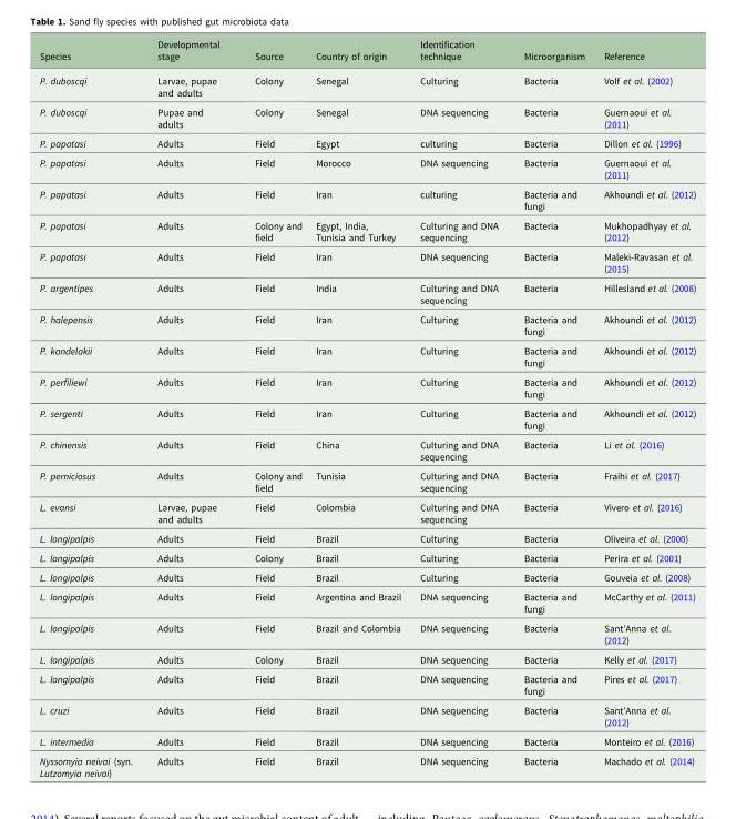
<table><thead><tr><td>Species</td><td>Developmental stage</td><td>Source</td><td>Country of origin</td><td>Identification technique</td><td>Microorganism</td><td>Reference</td></tr></thead><tbody><tr><td>P. duboscqi</td><td>Larvae, pupae and adults</td><td>Colony</td><td>Senegal</td><td>Culturing</td><td>Bacteria</td><td>Volf et al. (2002)</td></tr><tr><td>P. duboscqi</td><td>Pupae and adults</td><td>Colony</td><td>Senegal</td><td>DNA sequencing</td><td>Bacteria</td><td>Guernaoui et al. (2011)</td></tr><tr><td>P. papatasi</td><td>Adults</td><td>Field</td><td>Egypt</td><td>culturing</td><td>Bacteria</td><td>Dillon et al. (1996)</td></tr><tr><td>P. papatasi</td><td>Adults</td><td>Field</td><td>Morocco</td><td>DNA sequencing</td><td>Bacteria</td><td>Guernaoui et al. (2011)</td></tr><tr><td>P. papatasi</td><td>Adults</td><td>Field</td><td>Iran</td><td>culturing</td><td>Bacteria and fungi</td><td>Akhoundi et al. (2012)</td></tr><tr><td>P. papatasi</td><td>Adults</td><td>Colony and field</td><td>Egypt, India, Tunisia and Turkey</td><td>Culturing and DNA sequencing</td><td>Bacteria</td><td>Mukhopadhyay et al. (2012)</td></tr><tr><td>P. papatasi</td><td>Adults</td><td>Field</td><td>Iran</td><td>DNA sequencing</td><td>Bacteria</td><td>Maleki-Ravasan et al. (2015)</td></tr><tr><td>P. argentipes</td><td>Adults</td><td>Field</td><td>India</td><td>Culturing and DNA sequencing</td><td>Bacteria</td><td>Hillesland et al. (2008)</td></tr><tr><td>P. halepensis</td><td>Adults</td><td>Field</td><td>Iran</td><td>Culturing</td><td>Bacteria and fungi</td><td>Akhoundi et al. (2012)</td></tr><tr><td>P. kandelakii</td><td>Adults</td><td>Field</td><td>Iran</td><td>Culturing</td><td>Bacteria and fungi</td><td>Akhoundi et al. (2012)</td></tr><tr><td>P. perfiliewi</td><td>Adults</td><td>Field</td><td>Iran</td><td>Culturing</td><td>Bacteria and fungi</td><td>Akhoundi et al. (2012)</td></tr><tr><td>P. sergenti</td><td>Adults</td><td>Field</td><td>Iran</td><td>Culturing</td><td>Bacteria and fungi</td><td>Akhoundi et al. (2012)</td></tr><tr><td>P. chinensis</td><td>Adults</td><td>Field</td><td>China</td><td>Culturing and DNA sequencing</td><td>Bacteria</td><td>Li et al. (2016)</td></tr><tr><td>P. perniciosus</td><td>Adults</td><td>Colony and field</td><td>Tunisia</td><td>Culturing and DNA sequencing</td><td>Bacteria</td><td>Fraihi et al. (2017)</td></tr><tr><td>L. evansi</td><td>Larvae, pupae and adults</td><td>Field</td><td>Colombia</td><td>Culturing and DNA sequencing</td><td>Bacteria</td><td>Vivero et al. (2016)</td></tr><tr><td>L. longipalpis</td><td>Adults</td><td>Field</td><td>Brazil</td><td>Culturing</td><td>Bacteria</td><td>Oliveira et al. (2000)</td></tr><tr><td>L. longipalpis</td><td>Adults</td><td>Colony</td><td>Brazil</td><td>Culturing</td><td>Bacteria</td><td>Perira et al. (2001)</td></tr><tr><td>L. longipalpis</td><td>Adults</td><td>Field</td><td>Brazil</td><td>Culturing</td><td>Bacteria</td><td>Gouveia et al. (2008)</td></tr><tr><td>L. longipalpis</td><td>Adults</td><td>Field</td><td>Argentina and Brazil</td><td>DNA sequencing</td><td>Bacteria and fungi</td><td>McCarthy et al. (2011)</td></tr><tr><td>L. longipalpis</td><td>Adults</td><td>Field</td><td>Brazil and Colombia</td><td>DNA sequencing</td><td>Bacteria</td><td>Sant’Anna et al. (2012)</td></tr><tr><td>L. longipalpis</td><td>Adults</td><td>Colony</td><td>Brazil</td><td>DNA sequencing</td><td>Bacteria</td><td>Kelly et al. (2017)</td></tr><tr><td>L. longipalpis</td><td>Adults</td><td>Field</td><td>Brazil</td><td>DNA sequencing</td><td>Bacteria and fungi</td><td>Pires et al. (2017)</td></tr><tr><td>L. cruzi</td><td>Adults</td><td>Field</td><td>Brazil</td><td>DNA sequencing</td><td>Bacteria</td><td>Sant’Anna et al. (2012)</td></tr><tr><td>L. intermedia</td><td>Adults</td><td>Field</td><td>Brazil</td><td>DNA sequencing</td><td>Bacteria</td><td>Monteiro et al. (2016)</td></tr><tr><td>Nyssomyia neivai (syn. Lutzomyia neivai)</td><td>Adults</td><td>Field</td><td>Brazil</td><td>DNA sequencing</td><td>Bacteria</td><td>Machado et al. (2014)</td></tr></tbody></table>